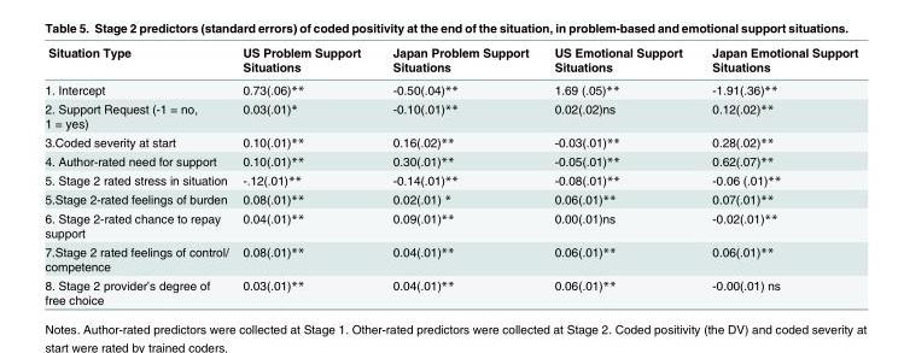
<table><thead><tr><td>Situation Type</td><td>US Problem Support Situations</td><td>Japan Problem Support Situations</td><td>US Emotional Support Situations</td><td>Japan Emotional Support Situations</td></tr></thead><tbody><tr><td>1. Intercept</td><td>0.73(.06)**</td><td>-0.50(.04)**</td><td>1.69 (.05)**</td><td>-1.91(.36)**</td></tr><tr><td>2. Support Request (-1 = no, 1 = yes)</td><td>0.03(.01)*</td><td>-0.10(.01)**</td><td>0.02(.02)ns</td><td>0.12(.02)**</td></tr><tr><td>3.Coded severity at start</td><td>0.10(.01)**</td><td>0.16(.02)**</td><td>-0.03(.01)**</td><td>0.28(.02)**</td></tr><tr><td>4. Author-rated need for support</td><td>0.10(.01)**</td><td>0.30(.01)**</td><td>-0.05(.01)**</td><td>0.62(.07)**</td></tr><tr><td>5. Stage 2 rated stress in situation</td><td>-.12(.01)**</td><td>-0.14(.01)**</td><td>-0.08(.01)**</td><td>-0.06 (.01)**</td></tr><tr><td>5.Stage 2-rated feelings of burden</td><td>0.08(.01)**</td><td>0.02(.01) *</td><td>0.06(.01)**</td><td>0.07(.01)**</td></tr><tr><td>6. Stage 2-rated chance to repay support</td><td>0.04(.01)**</td><td>0.09(.01)**</td><td>0.00(.01)ns</td><td>-0.02(.01)**</td></tr><tr><td>7.Stage 2 rated feelings of control/ competence</td><td>0.08(.01)**</td><td>0.04(.01)**</td><td>0.06(.01)**</td><td>0.06(.01)**</td></tr><tr><td>8. Stage 2 provider’s degree of free choice</td><td>0.03(.01)**</td><td>0.04(.01)**</td><td>0.06(.01)**</td><td>-0.00(.01) ns</td></tr></tbody></table>